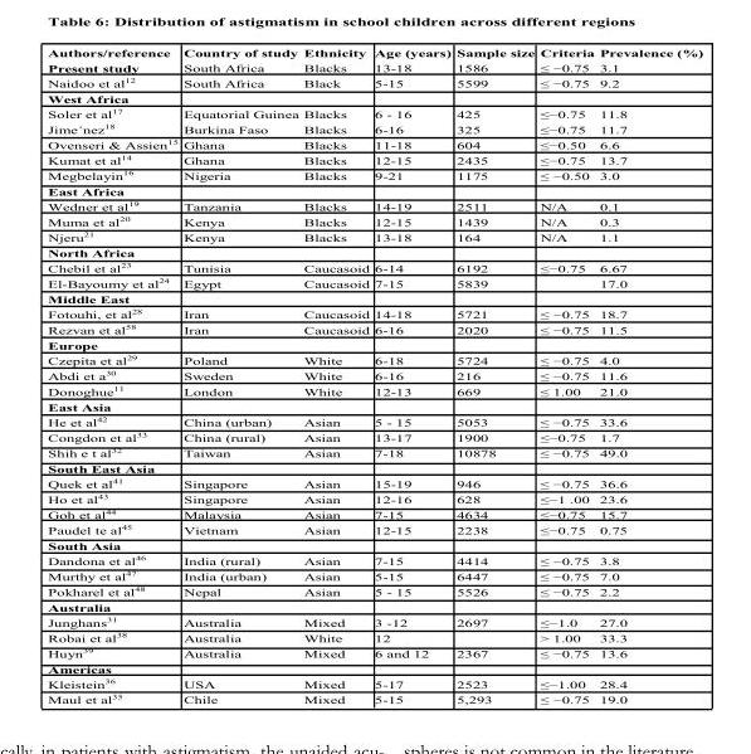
<table><thead><tr><td>Authors/reference</td><td>Country of study</td><td>Ethnicity</td><td>Age (years)</td><td>Sample size</td><td>Criteria</td><td>Prevalence (%)</td></tr></thead><tbody><tr><td>Present study</td><td>South Africa</td><td>Blacks</td><td>13-18</td><td>1586</td><td>≤ −0.75</td><td>3.1</td></tr><tr><td>Naidoo et al<sup>12</sup></td><td>South Africa</td><td>Black</td><td>5-15</td><td>5599</td><td>≤ −0.75</td><td>9.2</td></tr><tr><td colspan="7">West Africa</td></tr><tr><td>Soler et al<sup>17</sup></td><td>Equatorial Guinea</td><td>Blacks</td><td>6 - 16</td><td>425</td><td>≤−0.75</td><td>11.8</td></tr><tr><td>Jime´nez18</td><td>Burkina Faso</td><td>Blacks</td><td>6-16</td><td>325</td><td>≤−0.75</td><td>11.7</td></tr><tr><td>Ovenseri &amp; Assien<sup>15</sup></td><td>Ghana</td><td>Blacks</td><td>11-18</td><td>604</td><td>≤−0.50</td><td>6.6</td></tr><tr><td>Kumat et al<sup>14</sup></td><td>Ghana</td><td>Blacks</td><td>12-15</td><td>2435</td><td>≤−0.75</td><td>13.7</td></tr><tr><td>Megbelayin<sup>16</sup></td><td>Nigeria</td><td>Blacks</td><td>9-21</td><td>1175</td><td>≤ −0.50</td><td>3.0</td></tr><tr><td colspan="7">East Africa</td></tr><tr><td>Wedner et al<sup>19</sup></td><td>Tanzania</td><td>Blacks</td><td>14-19</td><td>2511</td><td>N/A</td><td>0.1</td></tr><tr><td>Muma et al<sup>20</sup></td><td>Kenya</td><td>Blacks</td><td>12-15</td><td>1439</td><td>N/A</td><td>0.3</td></tr><tr><td>Njeru<sup>21</sup></td><td>Kenya</td><td>Blacks</td><td>13-18</td><td>164</td><td>N/A</td><td>1.1</td></tr><tr><td colspan="7">North Africa</td></tr><tr><td>Chebil et al<sup>23</sup></td><td>Tunisia</td><td>Caucasoid</td><td>6-14</td><td>6192</td><td>≤−0.75</td><td>6.67</td></tr><tr><td>El-Bayoumy et al<sup>24</sup></td><td>Egypt</td><td>Caucasoid</td><td>7-15</td><td>5839</td><td></td><td>17.0</td></tr><tr><td colspan="7">Middle East</td></tr><tr><td>Fotouhi, et al<sup>28</sup></td><td>Iran</td><td>Caucasoid</td><td>14-18</td><td>5721</td><td>≤ −0.75</td><td>18.7</td></tr><tr><td>Rezvan et al<sup>58</sup></td><td>Iran</td><td>Caucasoid</td><td>6-16</td><td>2020</td><td>≤ −0.75</td><td>11.5</td></tr><tr><td colspan="7">Europe</td></tr><tr><td>Czepita et al<sup>29</sup></td><td>Poland</td><td>White</td><td>6-18</td><td>5724</td><td>≤ −0.75</td><td>4.0</td></tr><tr><td>Abdi et a<sup>30</sup></td><td>Sweden</td><td>White</td><td>6-16</td><td>216</td><td>≤ −0.75</td><td>11.6</td></tr><tr><td>Donoghue<sup>11</sup></td><td>London</td><td>White</td><td>12-13</td><td>669</td><td>≤ 1.00</td><td>21.0</td></tr><tr><td colspan="7">East Asia</td></tr><tr><td>He et al<sup>42</sup></td><td>China (urban)</td><td>Asian</td><td>5 - 15</td><td>5053</td><td>≤ −0.75</td><td>33.6</td></tr><tr><td>Congdon et al<sup>33</sup></td><td>China (rural)</td><td>Asian</td><td>13-17</td><td>1900</td><td>≤−0.75</td><td>1.7</td></tr><tr><td>Shih e t al<sup>32</sup></td><td>Taiwan</td><td>Asian</td><td>7-18</td><td>10878</td><td>≤ −0.75</td><td>49.0</td></tr><tr><td colspan="7">South East Asia</td></tr><tr><td>Quek et al<sup>41</sup></td><td>Singapore</td><td>Asian</td><td>15-19</td><td>946</td><td>≤ −0.75</td><td>36.6</td></tr><tr><td>Ho et al<sup>43</sup></td><td>Singapore</td><td>Asian</td><td>12-16</td><td>628</td><td>≤−1 .00</td><td>23.6</td></tr><tr><td>Goh et al<sup>44</sup></td><td>Malaysia</td><td>Asian</td><td>7-15</td><td>4634</td><td>≤−0.75</td><td>15.7</td></tr><tr><td>Paudel te al<sup>45</sup></td><td>Vietnam</td><td>Asian</td><td>12-15</td><td>2238</td><td>≤−0.75</td><td>0.75</td></tr><tr><td colspan="7">South Asia</td></tr><tr><td>Dandona et al<sup>46</sup></td><td>India (rural)</td><td>Asian</td><td>7-15</td><td>4414</td><td>≤ −0.75</td><td>3.8</td></tr><tr><td>Murthy et al<sup>47</sup></td><td>India (urban)</td><td>Asian</td><td>5-15</td><td>6447</td><td>≤ −0.75</td><td>7.0</td></tr><tr><td>Pokharel et al<sup>48</sup></td><td>Nepal</td><td>Asian</td><td>5 - 15</td><td>5526</td><td>≤ −0.75</td><td>2.2</td></tr><tr><td colspan="7">Australia</td></tr><tr><td>Junghans<sup>31</sup></td><td>Australia</td><td>Mixed</td><td>3 -12</td><td>2697</td><td>≤−1.0</td><td>27.0</td></tr><tr><td>Robai et al<sup>38</sup></td><td>Australia</td><td>White</td><td>12</td><td></td><td>&gt; 1.00</td><td>33.3</td></tr><tr><td>Huyn<sup>39</sup></td><td>Australia</td><td>Mixed</td><td>6 and 12</td><td>2367</td><td>≤ −0.75</td><td>13.6</td></tr><tr><td colspan="7">Americas</td></tr><tr><td>Kleistein<sup>36</sup></td><td>USA</td><td>Mixed</td><td>5-17</td><td>2523</td><td>≤−1.00</td><td>28.4</td></tr><tr><td>Maul et al<sup>35</sup></td><td>Chile</td><td>Mixed</td><td>5-15</td><td>5,293</td><td>≤ −0.75</td><td>19.0</td></tr></tbody></table>